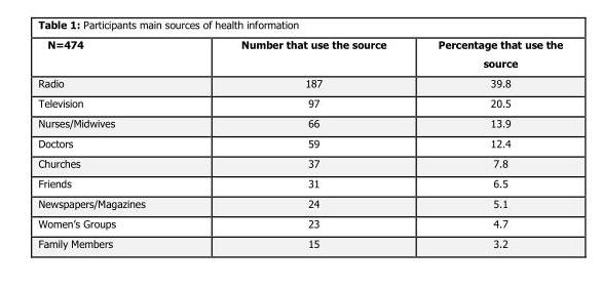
<table><thead><tr><td>N=474</td><td>Number that use the source</td><td>Percentage that use the source</td></tr></thead><tbody><tr><td>Radio</td><td>187</td><td>39.8</td></tr><tr><td>Television</td><td>97</td><td>20.5</td></tr><tr><td>Nurses/Midwives</td><td>66</td><td>13.9</td></tr><tr><td>Doctors</td><td>59</td><td>12.4</td></tr><tr><td>Churches</td><td>37</td><td>7.8</td></tr><tr><td>Friends</td><td>31</td><td>6.5</td></tr><tr><td>Newspapers/Magazines</td><td>24</td><td>5.1</td></tr><tr><td>Women’s Groups</td><td>23</td><td>4.7</td></tr><tr><td>Family Members</td><td>15</td><td>3.2</td></tr></tbody></table>